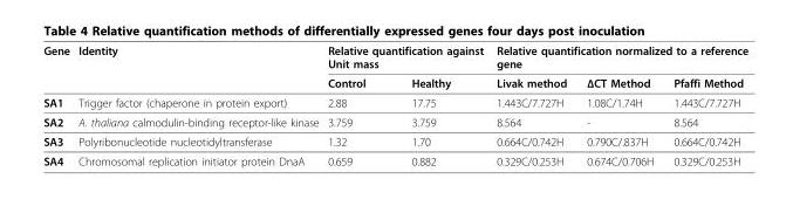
<table><thead><tr><td rowspan="2">Gene</td><td rowspan="2">Identity</td><td colspan="2">Relative quantification against Unit mass</td><td colspan="3">Relative quantification normalized to a reference gene</td></tr><tr><td>Control</td><td>Healthy</td><td>Livak method</td><td>ΔCT Method</td><td>Pfaffi Method</td></tr></thead><tbody><tr><td>SA1</td><td>Trigger factor (chaperone in protein export)</td><td>2.88</td><td>17.75</td><td>1.443C/7.727H</td><td>1.08C/1.74H</td><td>1.443C/7.727H</td></tr><tr><td>SA2</td><td>A. thaliana calmodulin-binding receptor-like kinase</td><td>3.759</td><td>3.759</td><td>8.564</td><td>-</td><td>8.564</td></tr><tr><td>SA3</td><td>Polyribonucleotide nucleotidyltransferase</td><td>1.32</td><td>1.70</td><td>0.664C/0.742H</td><td>0.790C/.837H</td><td>0.664C/0.742H</td></tr><tr><td>SA4</td><td>Chromosomal replication initiator protein DnaA</td><td>0.659</td><td>0.882</td><td>0.329C/0.253H</td><td>0.674C/0.706H</td><td>0.329C/0.253H</td></tr></tbody></table>